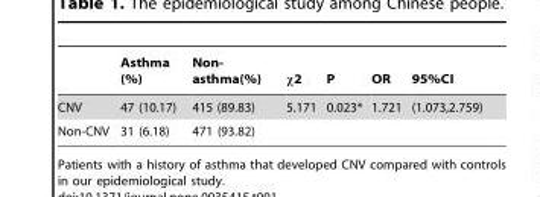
<table><thead><tr><td></td><td>Asthma (%)</td><td>Non- asthma(%)</td><td>χ<sup>2</sup></td><td>P</td><td>OR</td><td>95%CI</td></tr></thead><tbody><tr><td>CNV</td><td>47 (10.17)</td><td>415 (89.83)</td><td>5.171</td><td>0.023*</td><td>1.721</td><td>(1.073,2.759)</td></tr><tr><td>Non-CNV</td><td>31 (6.18)</td><td>471 (93.82)</td><td></td><td></td><td></td><td></td></tr></tbody></table>